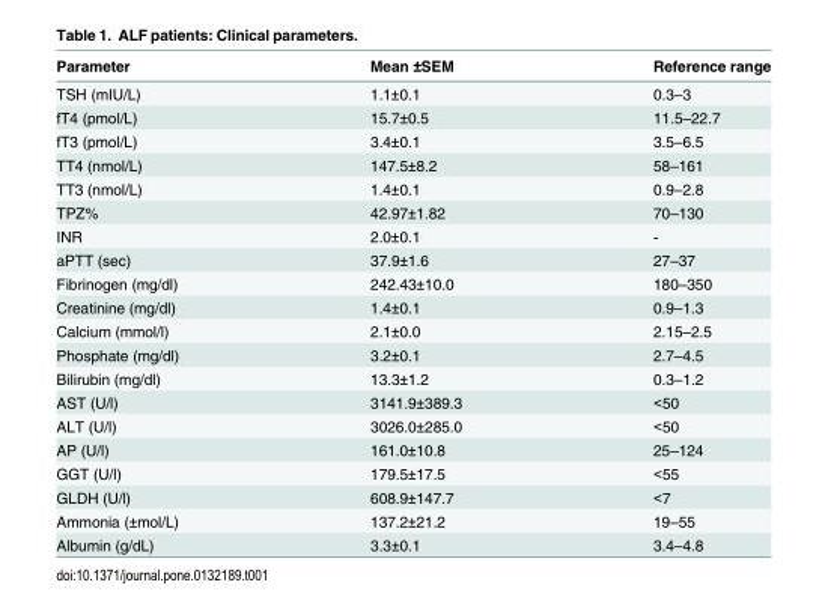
<table><thead><tr><td>Parameter</td><td>Mean ±SEM</td><td>Reference range</td></tr></thead><tbody><tr><td>TSH (mIU/L)</td><td>1.1±0.1</td><td>0.3–3</td></tr><tr><td>fT4 (pmol/L)</td><td>15.7±0.5</td><td>11.5–22.7</td></tr><tr><td>fT3 (pmol/L)</td><td>3.4±0.1</td><td>3.5–6.5</td></tr><tr><td>TT4 (nmol/L)</td><td>147.5±8.2</td><td>58–161</td></tr><tr><td>TT3 (nmol/L)</td><td>1.4±0.1</td><td>0.9–2.8</td></tr><tr><td>TPZ%</td><td>42.97±1.82</td><td>70–130</td></tr><tr><td>INR</td><td>2.0±0.1</td><td>-</td></tr><tr><td>aPTT (sec)</td><td>37.9±1.6</td><td>27–37</td></tr><tr><td>Fibrinogen (mg/dl)</td><td>242.43±10.0</td><td>180–350</td></tr><tr><td>Creatinine (mg/dl)</td><td>1.4±0.1</td><td>0.9–1.3</td></tr><tr><td>Calcium (mmol/l)</td><td>2.1±0.0</td><td>2.15–2.5</td></tr><tr><td>Phosphate (mg/dl)</td><td>3.2±0.1</td><td>2.7–4.5</td></tr><tr><td>Bilirubin (mg/dl)</td><td>13.3±1.2</td><td>0.3–1.2</td></tr><tr><td>AST (U/l)</td><td>3141.9±389.3</td><td>&lt;50</td></tr><tr><td>ALT (U/l)</td><td>3026.0±285.0</td><td>&lt;50</td></tr><tr><td>AP (U/l)</td><td>161.0±10.8</td><td>25–124</td></tr><tr><td>GGT (U/l)</td><td>179.5±17.5</td><td>&lt;55</td></tr><tr><td>GLDH (U/l)</td><td>608.9±147.7</td><td>&lt;7</td></tr><tr><td>Ammonia (±mol/L)</td><td>137.2±21.2</td><td>19–55</td></tr><tr><td>Albumin (g/dL)</td><td>3.3±0.1</td><td>3.4–4.8</td></tr></tbody></table>